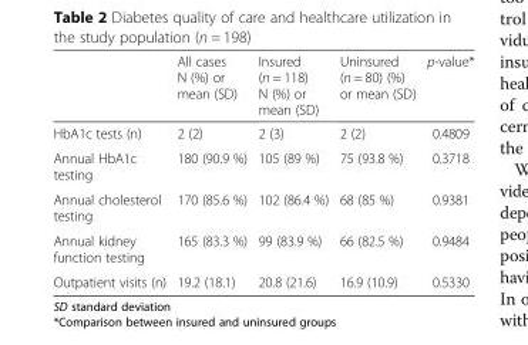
<table><thead><tr><td></td><td>All cases N (%) or mean (SD)</td><td>Insured (n = 118) N (%) or mean (SD)</td><td>Uninsured (n = 80) (%) or mean (SD)</td><td>p-value*</td></tr></thead><tbody><tr><td>HbA1c tests (n)</td><td>2 (2)</td><td>2 (3)</td><td>2 (2)</td><td>0.4809</td></tr><tr><td>Annual HbA1c testing</td><td>180 (90.9 %)</td><td>105 (89 %)</td><td>75 (93.8 %)</td><td>0.3718</td></tr><tr><td>Annual cholesterol testing</td><td>170 (85.6 %)</td><td>102 (86.4 %)</td><td>68 (85 %)</td><td>0.9381</td></tr><tr><td>Annual kidney function testing</td><td>165 (83.3 %)</td><td>99 (83.9 %)</td><td>66 (82.5 %)</td><td>0.9484</td></tr><tr><td>Outpatient visits (n)</td><td>19.2 (18.1)</td><td>20.8 (21.6)</td><td>16.9 (10.9)</td><td>0.5330</td></tr></tbody></table>